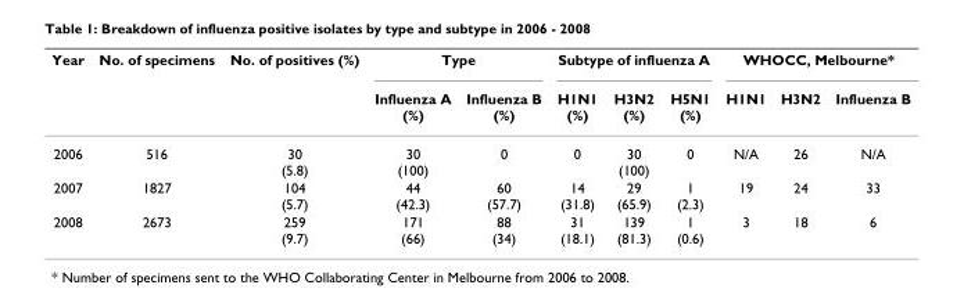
<table><thead><tr><td rowspan="2">Year</td><td rowspan="2">No. of specimens</td><td rowspan="2">No. of positives (%)</td><td colspan="2">Type</td><td colspan="3">Subtype of influenza A</td><td colspan="3">WHOCC, Melbourne*</td></tr><tr><td>Influenza A (%)</td><td>Influenza B (%)</td><td>H1N1 (%)</td><td>H3N2 (%)</td><td>H5N1 (%)</td><td>H1N1</td><td>H3N2</td><td>Influenza B</td></tr></thead><tbody><tr><td>2006</td><td>516</td><td>30 (5.8)</td><td>30 (100)</td><td>0</td><td>0</td><td>30 (100)</td><td>0</td><td>N/A</td><td>26</td><td>N/A</td></tr><tr><td>2007</td><td>1827</td><td>104 (5.7)</td><td>44 (42.3)</td><td>60 (57.7)</td><td>14 (31.8)</td><td>29 (65.9)</td><td>1 (2.3)</td><td>19</td><td>24</td><td>33</td></tr><tr><td>2008</td><td>2673</td><td>259 (9.7)</td><td>171 (66)</td><td>88 (34)</td><td>31 (18.1)</td><td>139 (81.3)</td><td>1 (0.6)</td><td>3</td><td>18</td><td>6</td></tr></tbody></table>